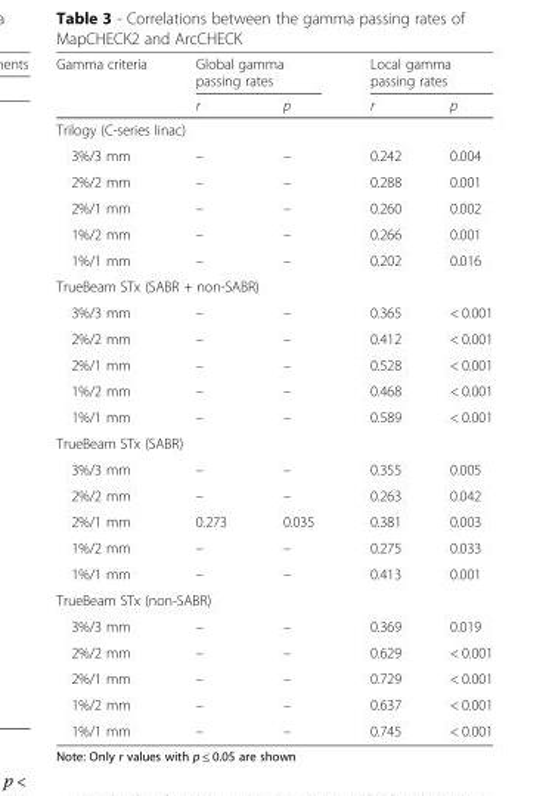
<table><thead><tr><td rowspan="2">Gamma criteria</td><td colspan="2">Global gamma passing rates</td><td colspan="2">Local gamma passing rates</td></tr><tr><td>r</td><td>p</td><td>r</td><td>p</td></tr></thead><tbody><tr><td colspan="5">Trilogy (C-series linac)</td></tr><tr><td>3%/3 mm</td><td>–</td><td>–</td><td>0.242</td><td>0.004</td></tr><tr><td>2%/2 mm</td><td>–</td><td>–</td><td>0.288</td><td>0.001</td></tr><tr><td>2%/1 mm</td><td>–</td><td>–</td><td>0.260</td><td>0.002</td></tr><tr><td>1%/2 mm</td><td>–</td><td>–</td><td>0.266</td><td>0.001</td></tr><tr><td>1%/1 mm</td><td>–</td><td>–</td><td>0.202</td><td>0.016</td></tr><tr><td colspan="5">TrueBeam STx (SABR + non-SABR)</td></tr><tr><td>3%/3 mm</td><td>–</td><td>–</td><td>0.365</td><td>&lt; 0.001</td></tr><tr><td>2%/2 mm</td><td>–</td><td>–</td><td>0.412</td><td>&lt; 0.001</td></tr><tr><td>2%/1 mm</td><td>–</td><td>–</td><td>0.528</td><td>&lt; 0.001</td></tr><tr><td>1%/2 mm</td><td>–</td><td>–</td><td>0.468</td><td>&lt; 0.001</td></tr><tr><td>1%/1 mm</td><td>–</td><td>–</td><td>0.589</td><td>&lt; 0.001</td></tr><tr><td colspan="5">TrueBeam STx (SABR)</td></tr><tr><td>3%/3 mm</td><td>–</td><td>–</td><td>0.355</td><td>0.005</td></tr><tr><td>2%/2 mm</td><td>–</td><td>–</td><td>0.263</td><td>0.042</td></tr><tr><td>2%/1 mm</td><td>0.273</td><td>0.035</td><td>0.381</td><td>0.003</td></tr><tr><td>1%/2 mm</td><td>–</td><td>–</td><td>0.275</td><td>0.033</td></tr><tr><td>1%/1 mm</td><td>–</td><td>–</td><td>0.413</td><td>0.001</td></tr><tr><td colspan="5">TrueBeam STx (non-SABR)</td></tr><tr><td>3%/3 mm</td><td>–</td><td>–</td><td>0.369</td><td>0.019</td></tr><tr><td>2%/2 mm</td><td>–</td><td>–</td><td>0.629</td><td>&lt; 0.001</td></tr><tr><td>2%/1 mm</td><td>–</td><td>–</td><td>0.729</td><td>&lt; 0.001</td></tr><tr><td>1%/2 mm</td><td>–</td><td>–</td><td>0.637</td><td>&lt; 0.001</td></tr><tr><td>1%/1 mm</td><td>–</td><td>–</td><td>0.745</td><td>&lt; 0.001</td></tr></tbody></table>